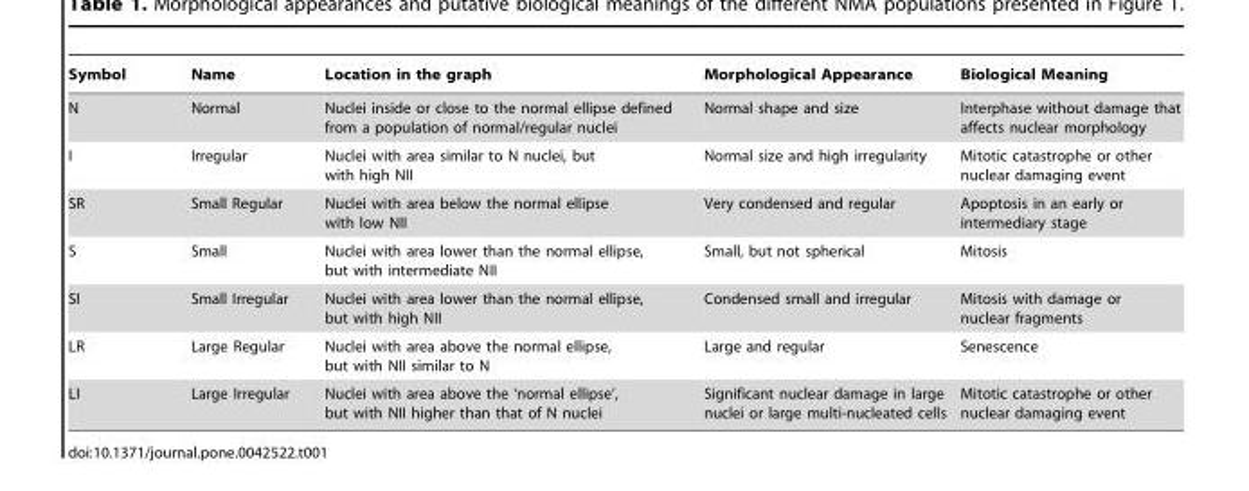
<table><thead><tr><td>Symbol</td><td>Name</td><td>Location in the graph</td><td>Morphological Appearance</td><td>Biological Meaning</td></tr></thead><tbody><tr><td>N</td><td>Normal</td><td>Nuclei inside or close to the normal ellipse defined from a population of normal/regular nuclei</td><td>Normal shape and size</td><td>Interphase without damage that affects nuclear morphology</td></tr><tr><td>I</td><td>Irregular</td><td>Nuclei with area similar to N nuclei, but with high NII</td><td>Normal size and high irregularity</td><td>Mitotic catastrophe or other nuclear damaging event</td></tr><tr><td>SR</td><td>Small Regular</td><td>Nuclei with area below the normal ellipse with low NII</td><td>Very condensed and regular</td><td>Apoptosis in an early or intermediary stage</td></tr><tr><td>S</td><td>Small</td><td>Nuclei with area lower than the normal ellipse, but with intermediate NII</td><td>Small, but not spherical</td><td>Mitosis</td></tr><tr><td>SI</td><td>Small Irregular</td><td>Nuclei with area lower than the normal ellipse, but with high NII</td><td>Condensed small and irregular</td><td>Mitosis with damage or nuclear fragments</td></tr><tr><td>LR</td><td>Large Regular</td><td>Nuclei with area above the normal ellipse, but with NII similar to N</td><td>Large and regular</td><td>Senescence</td></tr><tr><td>LI</td><td>Large Irregular</td><td>Nuclei with area above the ‘normal ellipse’, but with NII higher than that of N nuclei</td><td>Significant nuclear damage in large nuclei or large multi-nucleated cells</td><td>Mitotic catastrophe or other nuclear damaging event</td></tr></tbody></table>